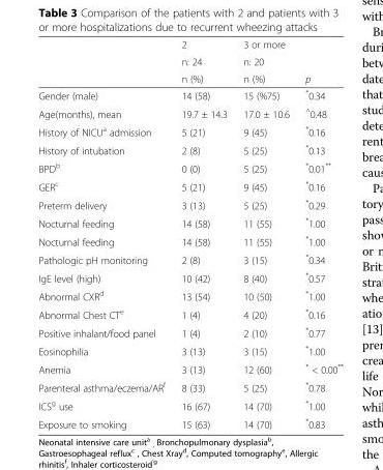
<table><thead><tr><td rowspan="3"></td><td rowspan="3">2 n: 24 n (%)</td><td rowspan="3">3 or more n: 20 n (%)</td><td rowspan="3">p</td></tr><tr></tr><tr></tr></thead><tbody><tr><td>Gender (male)</td><td>14 (58)</td><td>15 (%75)</td><td>*0.34</td></tr><tr><td>Age(months), mean</td><td>19.7 ± 14.3</td><td>17.0 ± 10.6</td><td><sup>^</sup>0.48</td></tr><tr><td>History of NICU<sup>a</sup> admission</td><td>5 (21)</td><td>9 (45)</td><td>*0.16</td></tr><tr><td>History of intubation</td><td>2 (8)</td><td>5 (25)</td><td>*0.13</td></tr><tr><td>BPD<sup>b</sup></td><td>0 (0)</td><td>5 (25)</td><td>*0.01**</td></tr><tr><td>GER<sup>c</sup></td><td>5 (21)</td><td>9 (45)</td><td>*0.16</td></tr><tr><td>Preterm delivery</td><td>3 (13)</td><td>5 (25)</td><td>*0.29</td></tr><tr><td>Nocturnal feeding</td><td>14 (58)</td><td>11 (55)</td><td>*1.00</td></tr><tr><td>Nocturnal feeding</td><td>14 (58)</td><td>11 (55)</td><td>*1.00</td></tr><tr><td>Pathologic pH monitoring</td><td>2 (8)</td><td>3 (15)</td><td>*0.34</td></tr><tr><td>IgE level (high)</td><td>10 (42)</td><td>8 (40)</td><td>*0.57</td></tr><tr><td>Abnormal CXR<sup>d</sup></td><td>13 (54)</td><td>10 (50)</td><td>*1.00</td></tr><tr><td>Abnormal Chest CT<sup>e</sup></td><td>1 (4)</td><td>4 (20)</td><td>*0.16</td></tr><tr><td>Positive inhalant/food panel</td><td>1 (4)</td><td>2 (10)</td><td>*0.77</td></tr><tr><td>Eosinophilia</td><td>3 (13)</td><td>3 (15)</td><td>*1.00</td></tr><tr><td>Anemia</td><td>3 (13)</td><td>12 (60)</td><td>* &lt; 0.00**</td></tr><tr><td>Parenteral asthma/eczema/AR<sup>f</sup></td><td>8 (33)</td><td>5 (25)</td><td>*0.78</td></tr><tr><td>ICS<sup>g</sup> use</td><td>16 (67)</td><td>14 (70)</td><td>*1.00</td></tr><tr><td>Exposure to smoking</td><td>15 (63)</td><td>14 (70)</td><td>*0.83</td></tr></tbody></table>